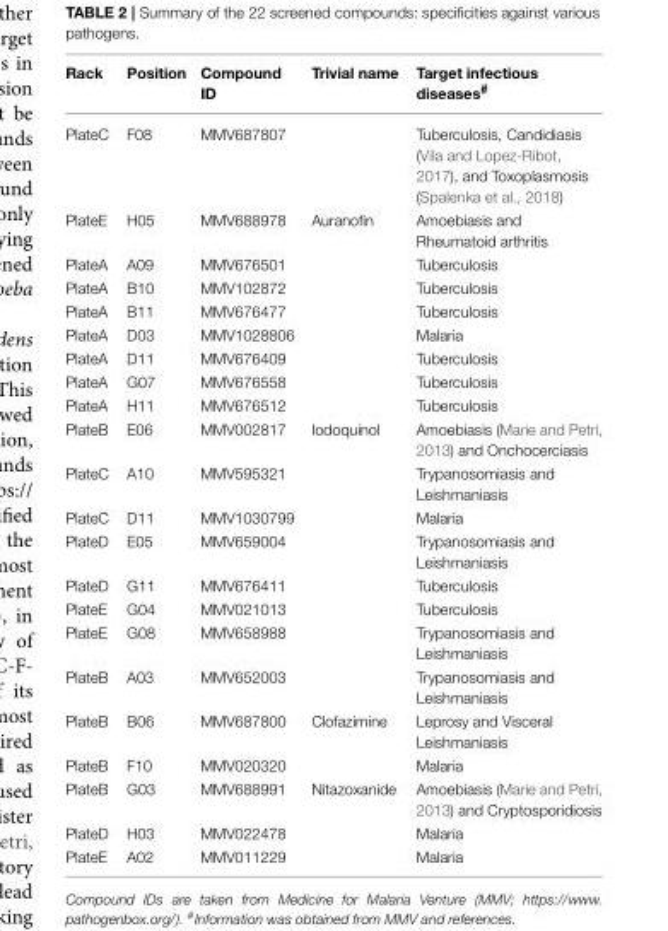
<table><thead><tr><td>Rack</td><td>Position</td><td>Compound ID</td><td>Trivial name</td><td>Target infectious diseases<sup>#</sup></td></tr></thead><tbody><tr><td>PlateC</td><td>F08</td><td>MMV687807</td><td></td><td>Tuberculosis, Candidiasis (Vila and Lopez-Ribot, 2017), and Toxoplasmosis (Spalenka et al., 2018)</td></tr><tr><td>PlateE</td><td>H05</td><td>MMV688978</td><td>Auranofin</td><td>Amoebiasis and Rheumatoid arthritis</td></tr><tr><td>PlateA</td><td>A09</td><td>MMV676501</td><td></td><td>Tuberculosis</td></tr><tr><td>PlateA</td><td>B10</td><td>MMV102872</td><td></td><td>Tuberculosis</td></tr><tr><td>PlateA</td><td>B11</td><td>MMV676477</td><td></td><td>Tuberculosis</td></tr><tr><td>PlateA</td><td>D03</td><td>MMV1028806</td><td></td><td>Malaria</td></tr><tr><td>PlateA</td><td>D11</td><td>MMV676409</td><td></td><td>Tuberculosis</td></tr><tr><td>PlateA</td><td>G07</td><td>MMV676558</td><td></td><td>Tuberculosis</td></tr><tr><td>PlateA</td><td>H11</td><td>MMV676512</td><td></td><td>Tuberculosis</td></tr><tr><td>PlateB</td><td>E06</td><td>MMV002817</td><td>Iodoquinol</td><td>Amoebiasis (Marie and Petri, 2013) and Onchocerciasis</td></tr><tr><td>PlateC</td><td>A10</td><td>MMV595321</td><td></td><td>Trypanosomiasis and Leishmaniasis</td></tr><tr><td>PlateC</td><td>D11</td><td>MMV1030799</td><td></td><td>Malaria</td></tr><tr><td>PlateD</td><td>E05</td><td>MMV659004</td><td></td><td>Trypanosomiasis and Leishmaniasis</td></tr><tr><td>PlateD</td><td>G11</td><td>MMV676411</td><td></td><td>Tuberculosis</td></tr><tr><td>PlateE</td><td>G04</td><td>MMV021013</td><td></td><td>Tuberculosis</td></tr><tr><td>PlateE</td><td>G08</td><td>MMV658988</td><td></td><td>Trypanosomiasis and Leishmaniasis</td></tr><tr><td>PlateB</td><td>A03</td><td>MMV652003</td><td></td><td>Trypanosomiasis and Leishmaniasis</td></tr><tr><td>PlateB</td><td>B06</td><td>MMV687800</td><td>Clofazimine</td><td>Leprosy and Visceral Leishmaniasis</td></tr><tr><td>PlateB</td><td>F10</td><td>MMV020320</td><td></td><td>Malaria</td></tr><tr><td>PlateB</td><td>G03</td><td>MMV688991</td><td>Nitazoxanide</td><td>Amoebiasis (Marie and Petri, 2013) and Cryptosporidiosis</td></tr><tr><td>PlateD</td><td>H03</td><td>MMV022478</td><td></td><td>Malaria</td></tr><tr><td>PlateE</td><td>A02</td><td>MMV011229</td><td></td><td>Malaria</td></tr></tbody></table>